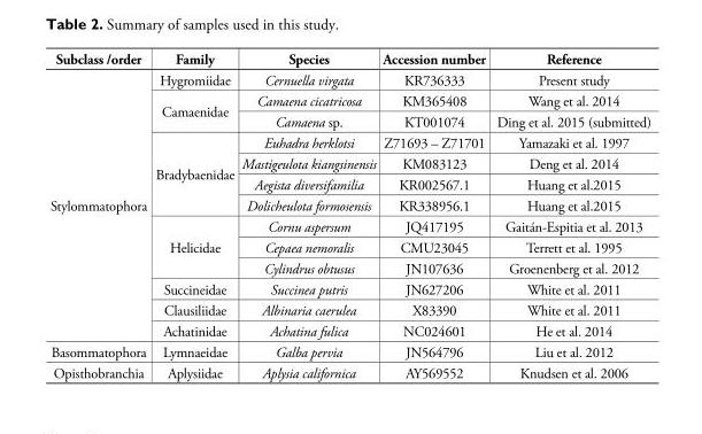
<table><thead><tr><td>Subclass /order</td><td>Family</td><td>Species</td><td>Accession number</td><td>Reference</td></tr></thead><tbody><tr><td rowspan="13">Stylommatophora</td><td>Hygromiidae</td><td>Cernuella virgata</td><td>KR736333</td><td>Present study</td></tr><tr><td rowspan="2">Camaenidae</td><td>Camaena cicatricosa</td><td>KM365408</td><td>Wang et al. 2014</td></tr><tr><td>Camaena sp.</td><td>KT001074</td><td>Ding et al. 2015 (submitted)</td></tr><tr><td rowspan="4">Bradybaenidae</td><td>Euhadra herklotsi</td><td>Z71693 – Z71701</td><td>Yamazaki et al. 1997</td></tr><tr><td>Mastigeulota kiangsinensis</td><td>KM083123</td><td>Deng et al. 2014</td></tr><tr><td>Aegista diversifamilia</td><td>KR002567.1</td><td>Huang et al.2015</td></tr><tr><td>Dolicheulota formosensis</td><td>KR338956.1</td><td>Huang et al.2015</td></tr><tr><td rowspan="3">Helicidae</td><td>Cornu aspersum</td><td>JQ417195</td><td>Gaitán-Espitia et al. 2013</td></tr><tr><td>Cepaea nemoralis</td><td>CMU23045</td><td>Terrett et al. 1995</td></tr><tr><td>Cylindrus obtusus</td><td>JN107636</td><td>Groenenberg et al. 2012</td></tr><tr><td>Succineidae</td><td>Succinea putris</td><td>JN627206</td><td>White et al. 2011</td></tr><tr><td>Clausiliidae</td><td>Albinaria caerulea</td><td>X83390</td><td>White et al. 2011</td></tr><tr><td>Achatinidae</td><td>Achatina fulica</td><td>NC024601</td><td>He et al. 2014</td></tr><tr><td>Basommatophora</td><td>Lymnaeidae</td><td>Galba pervia</td><td>JN564796</td><td>Liu et al. 2012</td></tr><tr><td>Opisthobranchia</td><td>Aplysiidae</td><td>Aplysia californica</td><td>AY569552</td><td>Knudsen et al. 2006</td></tr></tbody></table>